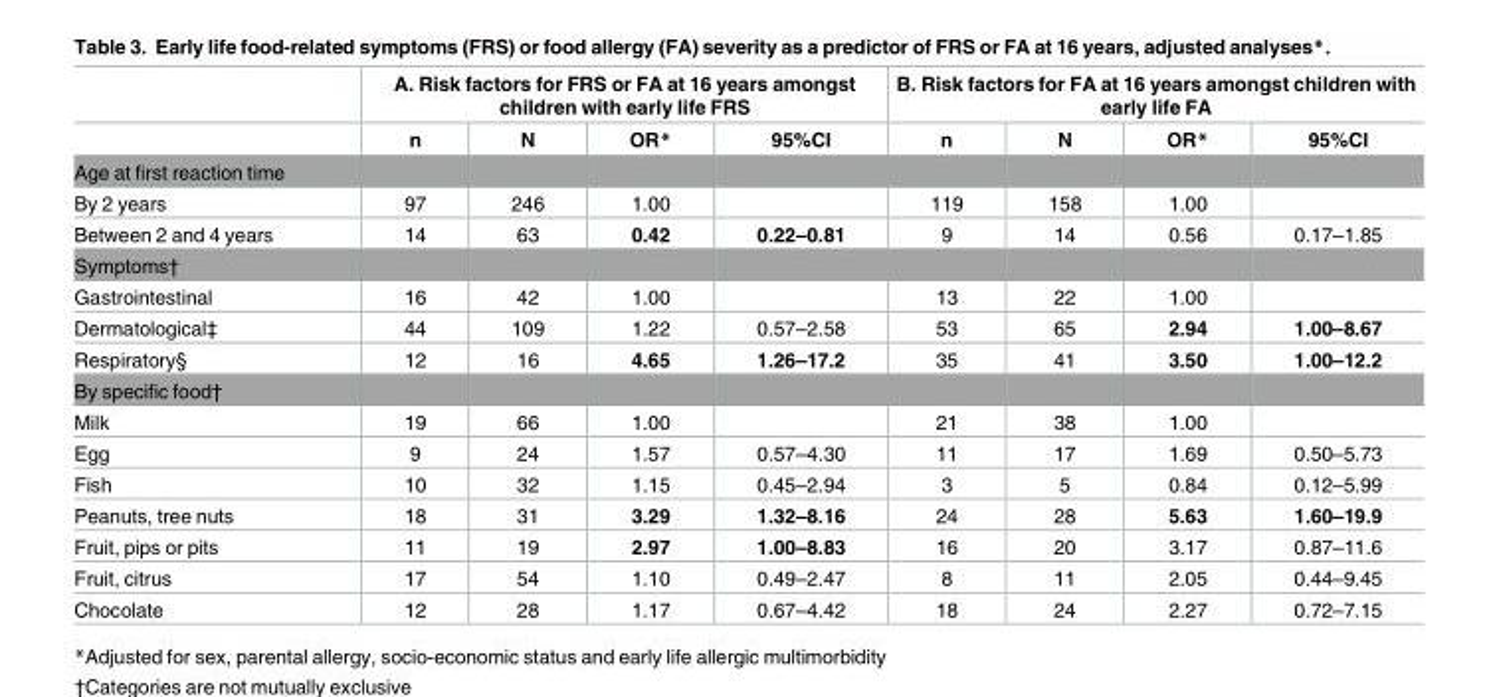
<table><thead><tr><td rowspan="2"></td><td colspan="4">A. Risk factors for FRS or FA at 16 years amongst children with early life FRS</td><td colspan="4">B. Risk factors for FA at 16 years amongst children with early life FA</td></tr><tr><td>n</td><td>N</td><td>OR*</td><td>95%CI</td><td>n</td><td>N</td><td>OR*</td><td>95%CI</td></tr></thead><tbody><tr><td colspan="9">Age at first reaction time</td></tr><tr><td>By 2 years</td><td>97</td><td>246</td><td>1.00</td><td></td><td>119</td><td>158</td><td>1.00</td><td></td></tr><tr><td>Between 2 and 4 years</td><td>14</td><td>63</td><td>0.42</td><td>0.22–0.81</td><td>9</td><td>14</td><td>0.56</td><td>0.17–1.85</td></tr><tr><td colspan="9">Symptoms†</td></tr><tr><td>Gastrointestinal</td><td>16</td><td>42</td><td>1.00</td><td></td><td>13</td><td>22</td><td>1.00</td><td></td></tr><tr><td>Dermatological‡</td><td>44</td><td>109</td><td>1.22</td><td>0.57–2.58</td><td>53</td><td>65</td><td>2.94</td><td>1.00–8.67</td></tr><tr><td>Respiratory§</td><td>12</td><td>16</td><td>4.65</td><td>1.26–17.2</td><td>35</td><td>41</td><td>3.50</td><td>1.00–12.2</td></tr><tr><td colspan="9">By specific food†</td></tr><tr><td>Milk</td><td>19</td><td>66</td><td>1.00</td><td></td><td>21</td><td>38</td><td>1.00</td><td></td></tr><tr><td>Egg</td><td>9</td><td>24</td><td>1.57</td><td>0.57–4.30</td><td>11</td><td>17</td><td>1.69</td><td>0.50–5.73</td></tr><tr><td>Fish</td><td>10</td><td>32</td><td>1.15</td><td>0.45–2.94</td><td>3</td><td>5</td><td>0.84</td><td>0.12–5.99</td></tr><tr><td>Peanuts, tree nuts</td><td>18</td><td>31</td><td>3.29</td><td>1.32–8.16</td><td>24</td><td>28</td><td>5.63</td><td>1.60–19.9</td></tr><tr><td>Fruit, pips or pits</td><td>11</td><td>19</td><td>2.97</td><td>1.00–8.83</td><td>16</td><td>20</td><td>3.17</td><td>0.87–11.6</td></tr><tr><td>Fruit, citrus</td><td>17</td><td>54</td><td>1.10</td><td>0.49–2.47</td><td>8</td><td>11</td><td>2.05</td><td>0.44–9.45</td></tr><tr><td>Chocolate</td><td>12</td><td>28</td><td>1.17</td><td>0.67–4.42</td><td>18</td><td>24</td><td>2.27</td><td>0.72–7.15</td></tr></tbody></table>